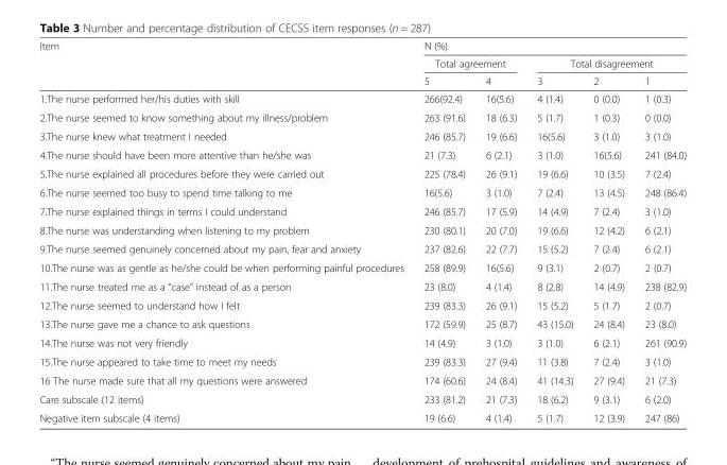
<table><thead><tr><td rowspan="3">Item</td><td colspan="5">N (%)</td></tr><tr><td colspan="2">Total agreement</td><td colspan="3">Total disagreement</td></tr><tr><td>5</td><td>4</td><td>3</td><td>2</td><td>1</td></tr></thead><tbody><tr><td>1.The nurse performed her/his duties with skill</td><td>266(92.4)</td><td>16(5.6)</td><td>4 (1.4)</td><td>0 (0.0)</td><td>1 (0.3)</td></tr><tr><td>2.The nurse seemed to know something about my illness/problem</td><td>263 (91.6)</td><td>18 (6.3)</td><td>5 (1.7)</td><td>1 (0.3)</td><td>0 (0.0)</td></tr><tr><td>3.The nurse knew what treatment I needed</td><td>246 (85.7)</td><td>19 (6.6)</td><td>16(5.6)</td><td>3 (1.0)</td><td>3 (1.0)</td></tr><tr><td>4.The nurse should have been more attentive than he/she was</td><td>21 (7.3)</td><td>6 (2.1)</td><td>3 (1.0)</td><td>16(5.6)</td><td>241 (84.0)</td></tr><tr><td>5.The nurse explained all procedures before they were carried out</td><td>225 (78.4)</td><td>26 (9.1)</td><td>19 (6.6)</td><td>10 (3.5)</td><td>7 (2.4)</td></tr><tr><td>6.The nurse seemed too busy to spend time talking to me</td><td>16(5.6)</td><td>3 (1.0)</td><td>7 (2.4)</td><td>13 (4.5)</td><td>248 (86.4)</td></tr><tr><td>7.The nurse explained things in terms I could understand</td><td>246 (85.7)</td><td>17 (5.9)</td><td>14 (4.9)</td><td>7 (2.4)</td><td>3 (1.0)</td></tr><tr><td>8.The nurse was understanding when listening to my problem</td><td>230 (80.1)</td><td>20 (7.0)</td><td>19 (6.6)</td><td>12 (4.2)</td><td>6 (2.1)</td></tr><tr><td>9.The nurse seemed genuinely concerned about my pain, fear and anxiety</td><td>237 (82.6)</td><td>22 (7.7)</td><td>15 (5.2)</td><td>7 (2.4)</td><td>6 (2.1)</td></tr><tr><td>10.The nurse was as gentle as he/she could be when performing painful procedures</td><td>258 (89.9)</td><td>16(5.6)</td><td>9 (3.1)</td><td>2 (0.7)</td><td>2 (0.7)</td></tr><tr><td>11.The nurse treated me as a “case” instead of as a person</td><td>23 (8.0)</td><td>4 (1.4)</td><td>8 (2.8)</td><td>14 (4.9)</td><td>238 (82.9)</td></tr><tr><td>12.The nurse seemed to understand how I felt</td><td>239 (83.3)</td><td>26 (9.1)</td><td>15 (5.2)</td><td>5 (1.7)</td><td>2 (0.7)</td></tr><tr><td>13.The nurse gave me a chance to ask questions</td><td>172 (59.9)</td><td>25 (8.7)</td><td>43 (15.0)</td><td>24 (8.4)</td><td>23 (8.0)</td></tr><tr><td>14.The nurse was not very friendly</td><td>14 (4.9)</td><td>3 (1.0)</td><td>3 (1.0)</td><td>6 (2.1)</td><td>261 (90.9)</td></tr><tr><td>15.The nurse appeared to take time to meet my needs</td><td>239 (83.3)</td><td>27 (9.4)</td><td>11 (3.8)</td><td>7 (2.4)</td><td>3 (1.0)</td></tr><tr><td>16 The nurse made sure that all my questions were answered</td><td>174 (60.6)</td><td>24 (8.4)</td><td>41 (14.3)</td><td>27 (9.4)</td><td>21 (7.3)</td></tr><tr><td>Care subscale (12 items)</td><td>233 (81.2)</td><td>21 (7.3)</td><td>18 (6.2)</td><td>9 (3.1)</td><td>6 (2.0)</td></tr><tr><td>Negative item subscale (4 items)</td><td>19 (6.6)</td><td>4 (1.4)</td><td>5 (1.7)</td><td>12 (3.9)</td><td>247 (86)</td></tr></tbody></table>